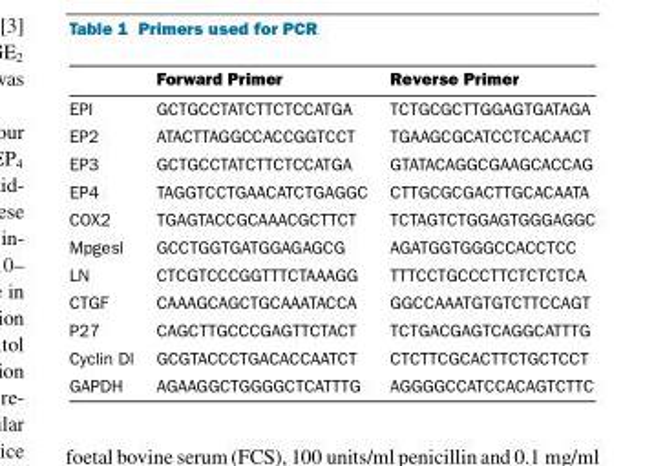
<table><thead><tr><td></td><td>Forward Primer</td><td>Reverse Primer</td></tr></thead><tbody><tr><td>EPI</td><td>GCTGCCTATCTTCTCCATGA</td><td>TCTGCGCTTGGAGTGATAGA</td></tr><tr><td>EP2</td><td>ATACTTAGGCCACCGGTCCT</td><td>TGAAGCGCATCCTCACAACT</td></tr><tr><td>EP3</td><td>GCTGCCTATCTTCTCCATGA</td><td>GTATACAGGCGAAGCACCAG</td></tr><tr><td>EP4</td><td>TAGGTCCTGAACATCTGAGGC</td><td>CTTGCGCGACTTGCACAATA</td></tr><tr><td>COX2</td><td>TGAGTACCGCAAACGCTTCT</td><td>TCTAGTCTGGAGTGGGAGGC</td></tr><tr><td>Mpgesl</td><td>GCCTGGTGATGGAGAGCG</td><td>AGATGGTGGGCCACCTCC</td></tr><tr><td>LN</td><td>CTCGTCCCGGTTTCTAAAGG</td><td>TTTCCTGCCCTTCTCTCTCA</td></tr><tr><td>CTGF</td><td>CAAAGCAGCTGCAAATACCA</td><td>GGCCAAATGTGTCTTCCAGT</td></tr><tr><td>P27</td><td>CAGCTTGCCCGAGTTCTACT</td><td>TCTGACGAGTCAGGCATTTG</td></tr><tr><td>Cyclin Dl</td><td>GCGTACCCTGACACCAATCT</td><td>CTCTTCGCACTTCTGCTCCT</td></tr><tr><td>GAPDH</td><td>AGAAGGCTGGGGCTCATTTG</td><td>AGGGGCCATCCACAGTCTTC</td></tr></tbody></table>